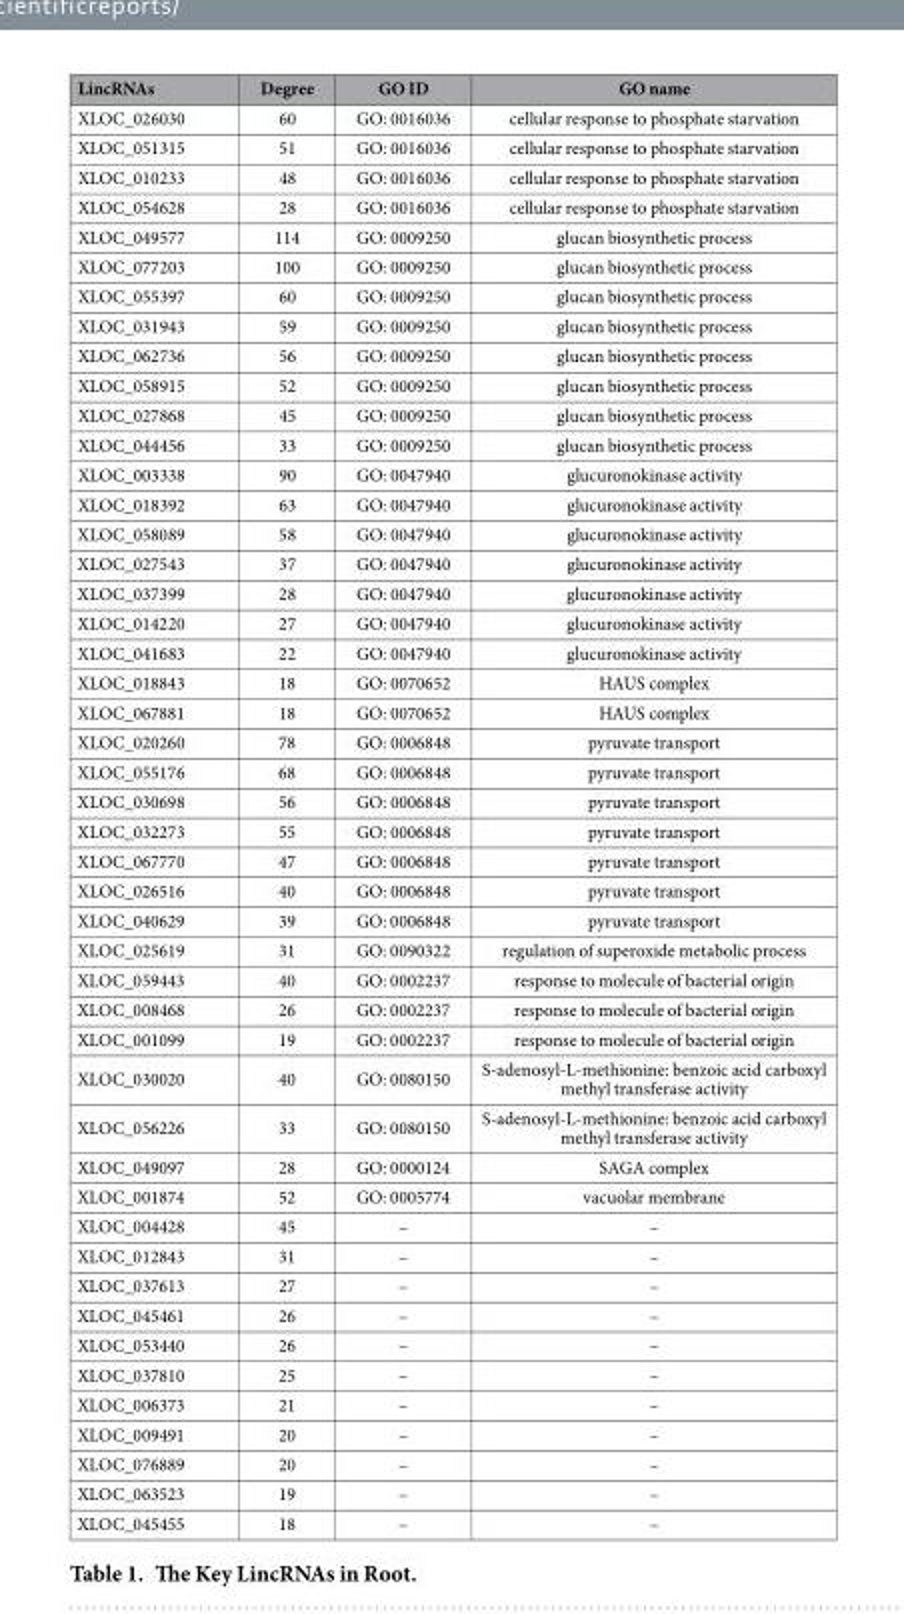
<table><thead><tr><td>LincRNAs</td><td>Degree</td><td>GO ID</td><td>GO name</td></tr></thead><tbody><tr><td>XLOC_026030</td><td>60</td><td>GO: 0016036</td><td>cellular response to phosphate starvation</td></tr><tr><td>XLOC_051315</td><td>51</td><td>GO: 0016036</td><td>cellular response to phosphate starvation</td></tr><tr><td>XLOC_010233</td><td>48</td><td>GO: 0016036</td><td>cellular response to phosphate starvation</td></tr><tr><td>XLOC_054628</td><td>28</td><td>GO: 0016036</td><td>cellular response to phosphate starvation</td></tr><tr><td>XLOC_049577</td><td>114</td><td>GO: 0009250</td><td>glucan biosynthetic process</td></tr><tr><td>XLOC_077203</td><td>100</td><td>GO: 0009250</td><td>glucan biosynthetic process</td></tr><tr><td>XLOC_055397</td><td>60</td><td>GO: 0009250</td><td>glucan biosynthetic process</td></tr><tr><td>XLOC_031943</td><td>59</td><td>GO: 0009250</td><td>glucan biosynthetic process</td></tr><tr><td>XLOC_062736</td><td>56</td><td>GO: 0009250</td><td>glucan biosynthetic process</td></tr><tr><td>XLOC_058915</td><td>52</td><td>GO: 0009250</td><td>glucan biosynthetic process</td></tr><tr><td>XLOC_027868</td><td>45</td><td>GO: 0009250</td><td>glucan biosynthetic process</td></tr><tr><td>XLOC_044456</td><td>33</td><td>GO: 0009250</td><td>glucan biosynthetic process</td></tr><tr><td>XLOC_003338</td><td>90</td><td>GO: 0047940</td><td>glucuronokinase activity</td></tr><tr><td>XLOC_018392</td><td>63</td><td>GO: 0047940</td><td>glucuronokinase activity</td></tr><tr><td>XLOC_058089</td><td>58</td><td>GO: 0047940</td><td>glucuronokinase activity</td></tr><tr><td>XLOC_027543</td><td>37</td><td>GO: 0047940</td><td>glucuronokinase activity</td></tr><tr><td>XLOC_037399</td><td>28</td><td>GO: 0047940</td><td>glucuronokinase activity</td></tr><tr><td>XLOC_014220</td><td>27</td><td>GO: 0047940</td><td>glucuronokinase activity</td></tr><tr><td>XLOC_041683</td><td>22</td><td>GO: 0047940</td><td>glucuronokinase activity</td></tr><tr><td>XLOC_018843</td><td>18</td><td>GO: 0070652</td><td>HAUS complex</td></tr><tr><td>XLOC_067881</td><td>18</td><td>GO: 0070652</td><td>HAUS complex</td></tr><tr><td>XLOC_020260</td><td>78</td><td>GO: 0006848</td><td>pyruvate transport</td></tr><tr><td>XLOC_055176</td><td>68</td><td>GO: 0006848</td><td>pyruvate transport</td></tr><tr><td>XLOC_030698</td><td>56</td><td>GO: 0006848</td><td>pyruvate transport</td></tr><tr><td>XLOC_032273</td><td>55</td><td>GO: 0006848</td><td>pyruvate transport</td></tr><tr><td>XLOC_067770</td><td>47</td><td>GO: 0006848</td><td>pyruvate transport</td></tr><tr><td>XLOC_026516</td><td>40</td><td>GO: 0006848</td><td>pyruvate transport</td></tr><tr><td>XLOC_040629</td><td>39</td><td>GO: 0006848</td><td>pyruvate transport</td></tr><tr><td>XLOC_025619</td><td>31</td><td>GO: 0090322</td><td>regulation of superoxide metabolic process</td></tr><tr><td>XLOC_059443</td><td>40</td><td>GO: 0002237</td><td>response to molecule of bacterial origin</td></tr><tr><td>XLOC_008468</td><td>26</td><td>GO: 0002237</td><td>response to molecule of bacterial origin</td></tr><tr><td>XLOC_001099</td><td>19</td><td>GO: 0002237</td><td>response to molecule of bacterial origin</td></tr><tr><td>XLOC_030020</td><td>40</td><td>GO: 0080150</td><td>S-adenosyl-L-methionine: benzoic acid carboxyl methyl transferase activity</td></tr><tr><td>XLOC_056226</td><td>33</td><td>GO: 0080150</td><td>S-adenosyl-L-methionine: benzoic acid carboxyl methyl transferase activity</td></tr><tr><td>XLOC_049097</td><td>28</td><td>GO: 0000124</td><td>SAGA complex</td></tr><tr><td>XLOC_001874</td><td>52</td><td>GO: 0005774</td><td>vacuolar membrane</td></tr><tr><td>XLOC_004428</td><td>45</td><td>–</td><td>–</td></tr><tr><td>XLOC_012843</td><td>31</td><td>–</td><td>–</td></tr><tr><td>XLOC_037613</td><td>27</td><td>–</td><td>–</td></tr><tr><td>XLOC_045461</td><td>26</td><td>–</td><td>–</td></tr><tr><td>XLOC_053440</td><td>26</td><td>–</td><td>–</td></tr><tr><td>XLOC_037810</td><td>25</td><td>–</td><td>–</td></tr><tr><td>XLOC_006373</td><td>21</td><td>–</td><td>–</td></tr><tr><td>XLOC_009491</td><td>20</td><td>–</td><td>–</td></tr><tr><td>XLOC_076889</td><td>20</td><td>–</td><td>–</td></tr><tr><td>XLOC_063523</td><td>19</td><td>–</td><td>–</td></tr><tr><td>XLOC_045455</td><td>18</td><td>–</td><td>–</td></tr></tbody></table>